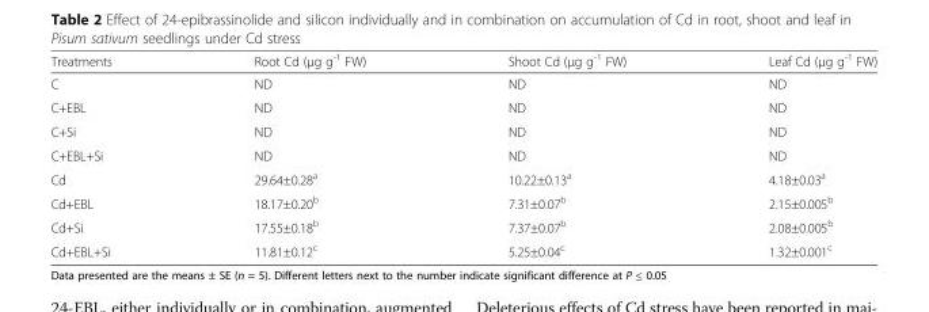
<table><thead><tr><td>Treatments</td><td>Root Cd (μg g<sup>-1</sup> FW)</td><td>Shoot Cd (μg g<sup>-1</sup> FW)</td><td>Leaf Cd (μg g<sup>-1</sup> FW)</td></tr></thead><tbody><tr><td>C</td><td>ND</td><td>ND</td><td>ND</td></tr><tr><td>C+EBL</td><td>ND</td><td>ND</td><td>ND</td></tr><tr><td>C+Si</td><td>ND</td><td>ND</td><td>ND</td></tr><tr><td>C+EBL+Si</td><td>ND</td><td>ND</td><td>ND</td></tr><tr><td>Cd</td><td>29.64±0.28<sup>a</sup></td><td>10.22±0.13<sup>a</sup></td><td>4.18±0.03<sup>a</sup></td></tr><tr><td>Cd+EBL</td><td>18.17±0.20<sup>b</sup></td><td>7.31±0.07<sup>b</sup></td><td>2.15±0.005<sup>b</sup></td></tr><tr><td>Cd+Si</td><td>17.55±0.18<sup>b</sup></td><td>7.37±0.07<sup>b</sup></td><td>2.08±0.005<sup>b</sup></td></tr><tr><td>Cd+EBL+Si</td><td>11.81±0.12<sup>c</sup></td><td>5.25±0.04<sup>c</sup></td><td>1.32±0.001<sup>c</sup></td></tr></tbody></table>